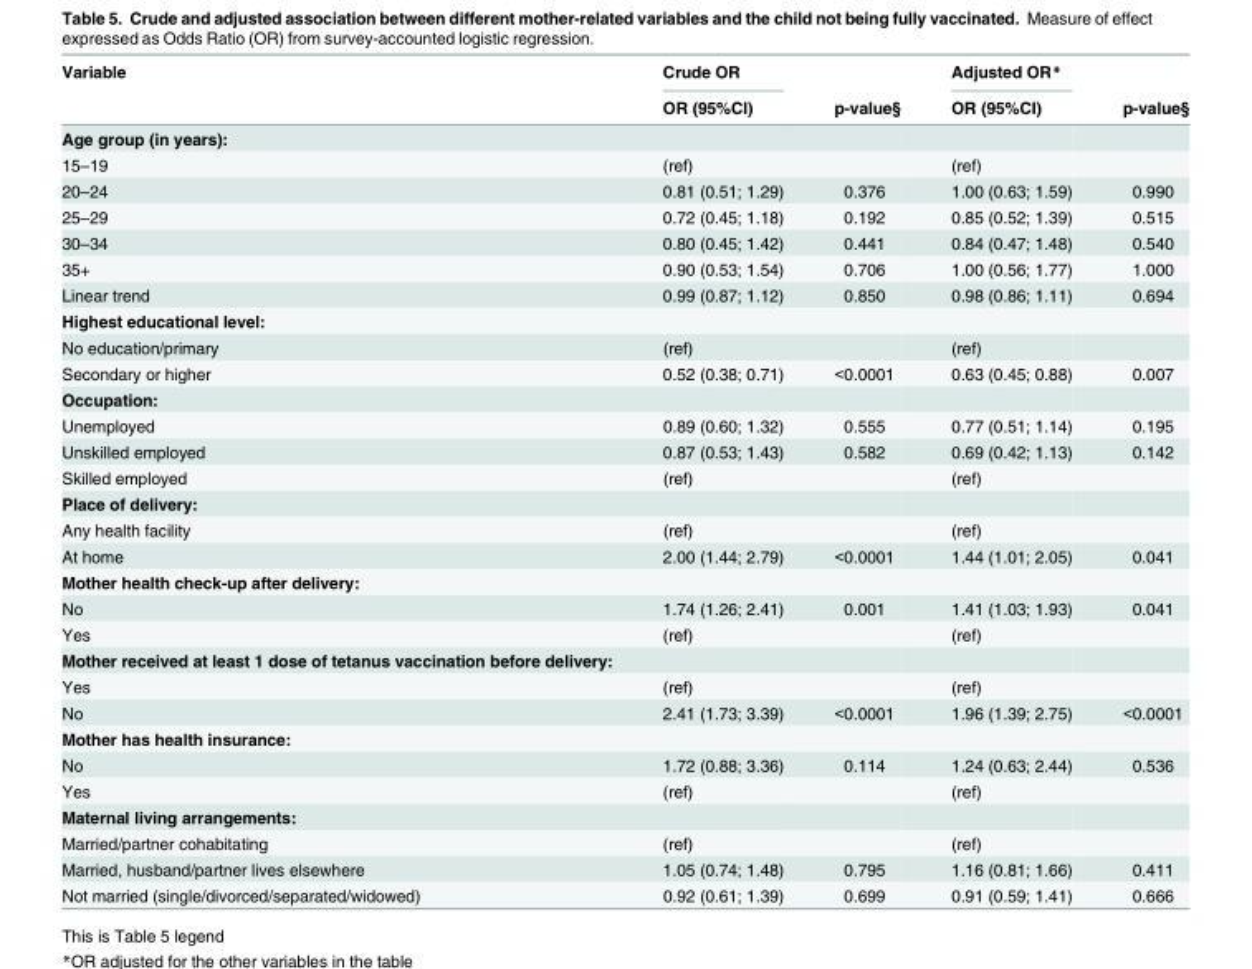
<table><thead><tr><td rowspan="2">Variable</td><td rowspan="2">Crude OR OR (95%CI)</td><td rowspan="2">p-value§</td><td rowspan="2">Adjusted OR* OR (95%CI)</td><td rowspan="2">p-value§</td></tr><tr></tr></thead><tbody><tr><td colspan="5">Age group (in years):</td></tr><tr><td>15–19</td><td>(ref)</td><td></td><td>(ref)</td><td></td></tr><tr><td>20–24</td><td>0.81 (0.51; 1.29)</td><td>0.376</td><td>1.00 (0.63; 1.59)</td><td>0.990</td></tr><tr><td>25–29</td><td>0.72 (0.45; 1.18)</td><td>0.192</td><td>0.85 (0.52; 1.39)</td><td>0.515</td></tr><tr><td>30–34</td><td>0.80 (0.45; 1.42)</td><td>0.441</td><td>0.84 (0.47; 1.48)</td><td>0.540</td></tr><tr><td>35+</td><td>0.90 (0.53; 1.54)</td><td>0.706</td><td>1.00 (0.56; 1.77)</td><td>1.000</td></tr><tr><td>Linear trend</td><td>0.99 (0.87; 1.12)</td><td>0.850</td><td>0.98 (0.86; 1.11)</td><td>0.694</td></tr><tr><td colspan="5">Highest educational level:</td></tr><tr><td>No education/primary</td><td>(ref)</td><td></td><td>(ref)</td><td></td></tr><tr><td>Secondary or higher</td><td>0.52 (0.38; 0.71)</td><td>&lt;0.0001</td><td>0.63 (0.45; 0.88)</td><td>0.007</td></tr><tr><td colspan="5">Occupation:</td></tr><tr><td>Unemployed</td><td>0.89 (0.60; 1.32)</td><td>0.555</td><td>0.77 (0.51; 1.14)</td><td>0.195</td></tr><tr><td>Unskilled employed</td><td>0.87 (0.53; 1.43)</td><td>0.582</td><td>0.69 (0.42; 1.13)</td><td>0.142</td></tr><tr><td>Skilled employed</td><td>(ref)</td><td></td><td>(ref)</td><td></td></tr><tr><td colspan="5">Place of delivery:</td></tr><tr><td>Any health facility</td><td>(ref)</td><td></td><td>(ref)</td><td></td></tr><tr><td>At home</td><td>2.00 (1.44; 2.79)</td><td>&lt;0.0001</td><td>1.44 (1.01; 2.05)</td><td>0.041</td></tr><tr><td colspan="5">Mother health check-up after delivery:</td></tr><tr><td>No</td><td>1.74 (1.26; 2.41)</td><td>0.001</td><td>1.41 (1.03; 1.93)</td><td>0.041</td></tr><tr><td>Yes</td><td>(ref)</td><td></td><td>(ref)</td><td></td></tr><tr><td colspan="5">Mother received at least 1 dose of tetanus vaccination before delivery:</td></tr><tr><td>Yes</td><td>(ref)</td><td></td><td>(ref)</td><td></td></tr><tr><td>No</td><td>2.41 (1.73; 3.39)</td><td>&lt;0.0001</td><td>1.96 (1.39; 2.75)</td><td>&lt;0.0001</td></tr><tr><td colspan="5">Mother has health insurance:</td></tr><tr><td>No</td><td>1.72 (0.88; 3.36)</td><td>0.114</td><td>1.24 (0.63; 2.44)</td><td>0.536</td></tr><tr><td>Yes</td><td>(ref)</td><td></td><td>(ref)</td><td></td></tr><tr><td colspan="5">Maternal living arrangements:</td></tr><tr><td>Married/partner cohabitating</td><td>(ref)</td><td></td><td>(ref)</td><td></td></tr><tr><td>Married, husband/partner lives elsewhere</td><td>1.05 (0.74; 1.48)</td><td>0.795</td><td>1.16 (0.81; 1.66)</td><td>0.411</td></tr><tr><td>Not married (single/divorced/separated/widowed)</td><td>0.92 (0.61; 1.39)</td><td>0.699</td><td>0.91 (0.59; 1.41)</td><td>0.666</td></tr></tbody></table>